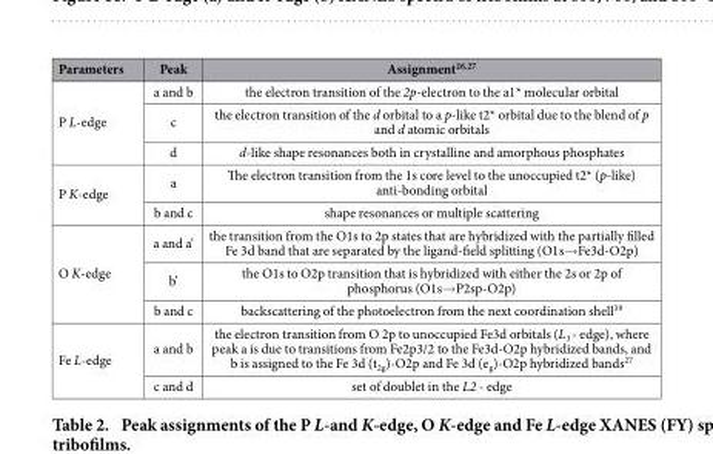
<table><thead><tr><td>Parameters</td><td>Peak</td><td>Assignment<sup>26</sup>,<sup>27</sup></td></tr></thead><tbody><tr><td rowspan="3">P L-edge</td><td>a and b</td><td>the electron transition of the 2p-electron to the a1* molecular orbital</td></tr><tr><td>c</td><td>the electron transition of the d orbital to a p-like t2* orbital due to the blend of p and d atomic orbitals</td></tr><tr><td>d</td><td>d-like shape resonances both in crystalline and amorphous phosphates</td></tr><tr><td rowspan="2">P K-edge</td><td>a</td><td>The electron transition from the 1s core level to the unoccupied t2* (p-like) anti-bonding orbital</td></tr><tr><td>b and c</td><td>shape resonances or multiple scattering</td></tr><tr><td rowspan="3">O K-edge</td><td>a and a’</td><td>the transition from the O1s to 2p states that are hybridized with the partially filled Fe 3d band that are separated by the ligand-field splitting (O1s→ Fe3d-O2p)</td></tr><tr><td>b’</td><td>the O1s to O2p transition that is hybridized with either the 2s or 2p of phosphorus (O1s→ P2sp-O2p)</td></tr><tr><td>b and c</td><td>backscattering of the photoelectron from the next coordination shell<sup>39</sup></td></tr><tr><td rowspan="2">Fe L-edge</td><td>a and b</td><td>the electron transition from O 2p to unoccupied Fe3d orbitals (L<sub>3</sub> - edge), where peak a is due to transitions from Fe2p3/2 to the Fe3d-O2p hybridized bands, and b is assigned to the Fe 3d (t<sub>2g</sub>)-O2p and Fe 3d (e<sub>g</sub>)-O2p hybridized bands<sup>27</sup></td></tr><tr><td>c and d</td><td>set of doublet in the L2 - edge</td></tr></tbody></table>